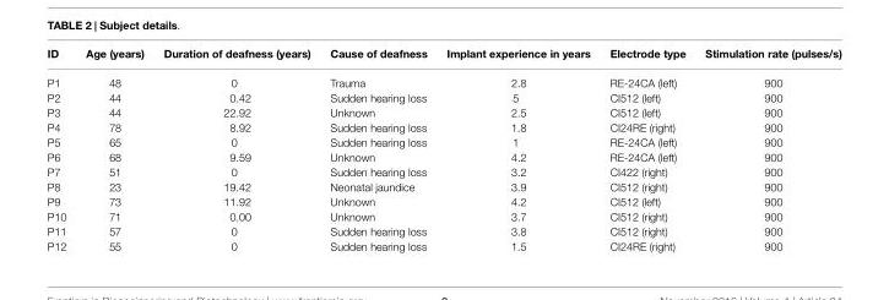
<table><thead><tr><td>ID</td><td>Age (years)</td><td>Duration of deafness (years)</td><td>Cause of deafness</td><td>Implant experience in years</td><td>Electrode type</td><td>Stimulation rate (pulses/s)</td></tr></thead><tbody><tr><td>P1</td><td>48</td><td>0</td><td>Trauma</td><td>2.8</td><td>RE-24CA (left)</td><td>900</td></tr><tr><td>P2</td><td>44</td><td>0.42</td><td>Sudden hearing loss</td><td>5</td><td>CI512 (left)</td><td>900</td></tr><tr><td>P3</td><td>44</td><td>22.92</td><td>Unknown</td><td>2.5</td><td>CI512 (left)</td><td>900</td></tr><tr><td>P4</td><td>78</td><td>8.92</td><td>Sudden hearing loss</td><td>1.8</td><td>CI24RE (right)</td><td>900</td></tr><tr><td>P5</td><td>65</td><td>0</td><td>Sudden hearing loss</td><td>1</td><td>RE-24CA (left)</td><td>900</td></tr><tr><td>P6</td><td>68</td><td>9.59</td><td>Unknown</td><td>4.2</td><td>RE-24CA (left)</td><td>900</td></tr><tr><td>P7</td><td>51</td><td>0</td><td>Sudden hearing loss</td><td>3.2</td><td>CI422 (right)</td><td>900</td></tr><tr><td>P8</td><td>23</td><td>19.42</td><td>Neonatal jaundice</td><td>3.9</td><td>CI512 (right)</td><td>900</td></tr><tr><td>P9</td><td>73</td><td>11.92</td><td>Unknown</td><td>4.2</td><td>CI512 (left)</td><td>900</td></tr><tr><td>P10</td><td>71</td><td>0.00</td><td>Unknown</td><td>3.7</td><td>CI512 (right)</td><td>900</td></tr><tr><td>P11</td><td>57</td><td>0</td><td>Sudden hearing loss</td><td>3.8</td><td>CI512 (right)</td><td>900</td></tr><tr><td>P12</td><td>55</td><td>0</td><td>Sudden hearing loss</td><td>1.5</td><td>CI24RE (right)</td><td>900</td></tr></tbody></table>